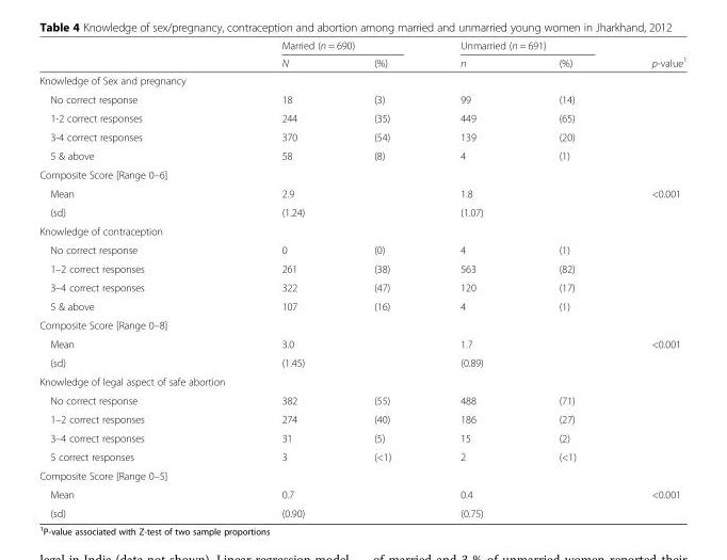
<table><thead><tr><td rowspan="2"></td><td colspan="2">Married (n = 690)</td><td colspan="2">Unmarried (n = 691)</td><td rowspan="2">p-value<sup>1</sup></td></tr><tr><td>N</td><td>(%)</td><td>n</td><td>(%)</td></tr></thead><tbody><tr><td colspan="6">Knowledge of Sex and pregnancy</td></tr><tr><td>No correct response</td><td>18</td><td>(3)</td><td>99</td><td>(14)</td><td></td></tr><tr><td>1-2 correct responses</td><td>244</td><td>(35)</td><td>449</td><td>(65)</td><td></td></tr><tr><td>3-4 correct responses</td><td>370</td><td>(54)</td><td>139</td><td>(20)</td><td></td></tr><tr><td>5 &amp; above</td><td>58</td><td>(8)</td><td>4</td><td>(1)</td><td></td></tr><tr><td colspan="6">Composite Score [Range 0–6]</td></tr><tr><td>Mean</td><td>2.9</td><td></td><td>1.8</td><td></td><td>&lt;0.001</td></tr><tr><td>(sd)</td><td>(1.24)</td><td></td><td>(1.07)</td><td></td><td></td></tr><tr><td colspan="6">Knowledge of contraception</td></tr><tr><td>No correct response</td><td>0</td><td>(0)</td><td>4</td><td>(1)</td><td></td></tr><tr><td>1–2 correct responses</td><td>261</td><td>(38)</td><td>563</td><td>(82)</td><td></td></tr><tr><td>3–4 correct responses</td><td>322</td><td>(47)</td><td>120</td><td>(17)</td><td></td></tr><tr><td>5 &amp; above</td><td>107</td><td>(16)</td><td>4</td><td>(1)</td><td></td></tr><tr><td colspan="6">Composite Score [Range 0–8]</td></tr><tr><td>Mean</td><td>3.0</td><td></td><td>1.7</td><td></td><td>&lt;0.001</td></tr><tr><td>(sd)</td><td>(1.45)</td><td></td><td>(0.89)</td><td></td><td></td></tr><tr><td colspan="6">Knowledge of legal aspect of safe abortion</td></tr><tr><td>No correct response</td><td>382</td><td>(55)</td><td>488</td><td>(71)</td><td></td></tr><tr><td>1–2 correct responses</td><td>274</td><td>(40)</td><td>186</td><td>(27)</td><td></td></tr><tr><td>3–4 correct responses</td><td>31</td><td>(5)</td><td>15</td><td>(2)</td><td></td></tr><tr><td>5 correct responses</td><td>3</td><td>(&lt;1)</td><td>2</td><td>(&lt;1)</td><td></td></tr><tr><td colspan="6">Composite Score [Range 0–5]</td></tr><tr><td>Mean</td><td>0.7</td><td></td><td>0.4</td><td></td><td>&lt;0.001</td></tr><tr><td>(sd)</td><td>(0.90)</td><td></td><td>(0.75)</td><td></td><td></td></tr></tbody></table>